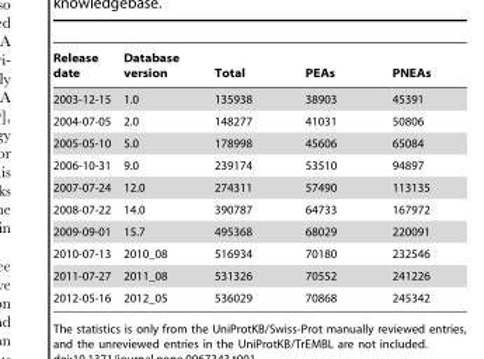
<table><thead><tr><td>Release date</td><td>Database version</td><td>Total</td><td>PEAs</td><td>PNEAs</td></tr></thead><tbody><tr><td>2003-12-15</td><td>1.0</td><td>135938</td><td>38903</td><td>45391</td></tr><tr><td>2004-07-05</td><td>2.0</td><td>148277</td><td>41031</td><td>50806</td></tr><tr><td>2005-05-10</td><td>5.0</td><td>178998</td><td>45606</td><td>65084</td></tr><tr><td>2006-10-31</td><td>9.0</td><td>239174</td><td>53510</td><td>94897</td></tr><tr><td>2007-07-24</td><td>12.0</td><td>274311</td><td>57490</td><td>113135</td></tr><tr><td>2008-07-22</td><td>14.0</td><td>390787</td><td>64733</td><td>167972</td></tr><tr><td>2009-09-01</td><td>15.7</td><td>495368</td><td>68029</td><td>220091</td></tr><tr><td>2010-07-13</td><td>2010_08</td><td>516934</td><td>70180</td><td>232546</td></tr><tr><td>2011-07-27</td><td>2011_08</td><td>531326</td><td>70552</td><td>241226</td></tr><tr><td>2012-05-16</td><td>2012_05</td><td>536029</td><td>70868</td><td>245342</td></tr></tbody></table>